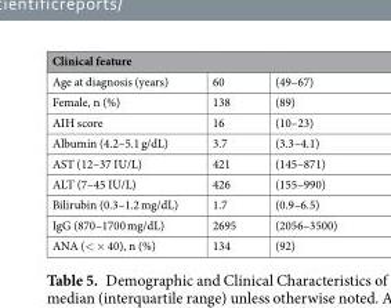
<table><thead><tr><td colspan="3">Clinical feature</td></tr><tr><td>Age at diagnosis (years)</td><td>60</td><td>(49–67)</td></tr></thead><tbody><tr><td>Female, n (%)</td><td>138</td><td>(89)</td></tr><tr><td>AIH score</td><td>16</td><td>(10–23)</td></tr><tr><td>Albumin (4.2–5.1 g/dL)</td><td>3.7</td><td>(3.3–4.1)</td></tr><tr><td>AST (12–37 IU/L)</td><td>421</td><td>(145–871)</td></tr><tr><td>ALT (7–45 IU/L)</td><td>426</td><td>(155–990)</td></tr><tr><td>Bilirubin (0.3–1.2 mg/dL)</td><td>1.7</td><td>(0.9–6.5)</td></tr><tr><td>IgG (870–1700 mg/dL)</td><td>2695</td><td>(2056–3500)</td></tr><tr><td>ANA (&lt; × 40), n (%)</td><td>134</td><td>(92)</td></tr></tbody></table>